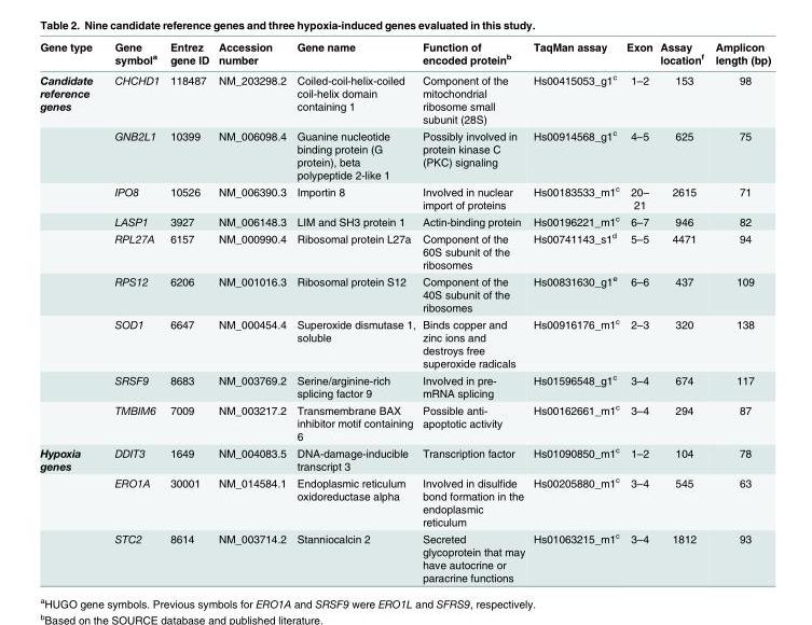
<table><thead><tr><td>Gene type</td><td>Gene symbol<sup>a</sup></td><td>Entrez gene ID</td><td>Accession number</td><td>Gene name</td><td>Function of encoded protein<sup>b</sup></td><td>TaqMan assay</td><td>Exon</td><td>Assay location<sup>f</sup></td><td>Amplicon length (bp)</td></tr></thead><tbody><tr><td rowspan="9">Candidate reference genes</td><td>CHCHD1</td><td>118487</td><td>NM_203298.2</td><td>Coiled-coil-helix-coiled coil-helix domain containing 1</td><td>Component of the mitochondrial ribosome small subunit (28S)</td><td>Hs00415053_g1<sup>c</sup></td><td>1–2</td><td>153</td><td>98</td></tr><tr><td>GNB2L1</td><td>10399</td><td>NM_006098.4</td><td>Guanine nucleotide binding protein (G protein), beta polypeptide 2-like 1</td><td>Possibly involved in protein kinase C (PKC) signaling</td><td>Hs00914568_g1<sup>c</sup></td><td>4–5</td><td>625</td><td>75</td></tr><tr><td>IPO8</td><td>10526</td><td>NM_006390.3</td><td>Importin 8</td><td>Involved in nuclear import of proteins</td><td>Hs00183533_m1<sup>c</sup></td><td>20– 21</td><td>2615</td><td>71</td></tr><tr><td>LASP1</td><td>3927</td><td>NM_006148.3</td><td>LIM and SH3 protein 1</td><td>Actin-binding protein</td><td>Hs00196221_m1<sup>c</sup></td><td>6–7</td><td>946</td><td>82</td></tr><tr><td>RPL27A</td><td>6157</td><td>NM_000990.4</td><td>Ribosomal protein L27a</td><td>Component of the 60S subunit of the ribosomes</td><td>Hs00741143_s1<sup>d</sup></td><td>5–5</td><td>4471</td><td>94</td></tr><tr><td>RPS12</td><td>6206</td><td>NM_001016.3</td><td>Ribosomal protein S12</td><td>Component of the 40S subunit of the ribosomes</td><td>Hs00831630_g1<sup>e</sup></td><td>6–6</td><td>437</td><td>109</td></tr><tr><td>SOD1</td><td>6647</td><td>NM_000454.4</td><td>Superoxide dismutase 1, soluble</td><td>Binds copper and zinc ions and destroys free superoxide radicals</td><td>Hs00916176_m1<sup>c</sup></td><td>2–3</td><td>320</td><td>138</td></tr><tr><td>SRSF9</td><td>8683</td><td>NM_003769.2</td><td>Serine/arginine-rich splicing factor 9</td><td>Involved in pre- mRNA splicing</td><td>Hs01596548_g1<sup>c</sup></td><td>3–4</td><td>674</td><td>117</td></tr><tr><td>TMBIM6</td><td>7009</td><td>NM_003217.2</td><td>Transmembrane BAX inhibitor motif containing 6</td><td>Possible anti- apoptotic activity</td><td>Hs00162661_m1<sup>c</sup></td><td>3–4</td><td>294</td><td>87</td></tr><tr><td rowspan="3">Hypoxia genes</td><td>DDIT3</td><td>1649</td><td>NM_004083.5</td><td>DNA-damage-inducible transcript 3</td><td>Transcription factor</td><td>Hs01090850_m1<sup>c</sup></td><td>1–2</td><td>104</td><td>78</td></tr><tr><td>ERO1A</td><td>30001</td><td>NM_014584.1</td><td>Endoplasmic reticulum oxidoreductase alpha</td><td>Involved in disulfide bond formation in the endoplasmic reticulum</td><td>Hs00205880_m1<sup>c</sup></td><td>3–4</td><td>545</td><td>63</td></tr><tr><td>STC2</td><td>8614</td><td>NM_003714.2</td><td>Stanniocalcin 2</td><td>Secreted glycoprotein that may have autocrine or paracrine functions</td><td>Hs01063215_m1<sup>c</sup></td><td>3–4</td><td>1812</td><td>93</td></tr></tbody></table>